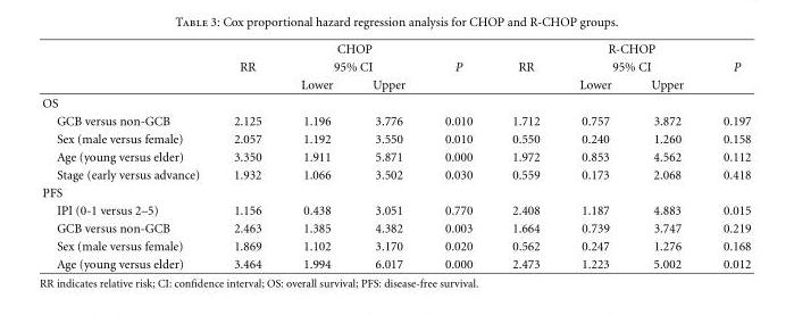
<table><thead><tr><td rowspan="3"></td><td colspan="4">CHOP</td><td colspan="4">R-CHOP</td></tr><tr><td rowspan="2">RR</td><td colspan="2">95% CI</td><td rowspan="2">P</td><td rowspan="2">RR</td><td colspan="2">95% CI</td><td rowspan="2">P</td></tr><tr><td>Lower</td><td>Upper</td><td>Lower</td><td>Upper</td></tr></thead><tbody><tr><td colspan="9">OS</td></tr><tr><td>GCB versus non-GCB</td><td>2.125</td><td>1.196</td><td>3.776</td><td>0.010</td><td>1.712</td><td>0.757</td><td>3.872</td><td>0.197</td></tr><tr><td>Sex (male versus female)</td><td>2.057</td><td>1.192</td><td>3.550</td><td>0.010</td><td>0.550</td><td>0.240</td><td>1.260</td><td>0.158</td></tr><tr><td>Age (young versus elder)</td><td>3.350</td><td>1.911</td><td>5.871</td><td>0.000</td><td>1.972</td><td>0.853</td><td>4.562</td><td>0.112</td></tr><tr><td>Stage (early versus advance)</td><td>1.932</td><td>1.066</td><td>3.502</td><td>0.030</td><td>0.559</td><td>0.173</td><td>2.068</td><td>0.418</td></tr><tr><td colspan="9">PFS</td></tr><tr><td>IPI (0-1 versus 2–5)</td><td>1.156</td><td>0.438</td><td>3.051</td><td>0.770</td><td>2.408</td><td>1.187</td><td>4.883</td><td>0.015</td></tr><tr><td>GCB versus non-GCB</td><td>2.463</td><td>1.385</td><td>4.382</td><td>0.003</td><td>1.664</td><td>0.739</td><td>3.747</td><td>0.219</td></tr><tr><td>Sex (male versus female)</td><td>1.869</td><td>1.102</td><td>3.170</td><td>0.020</td><td>0.562</td><td>0.247</td><td>1.276</td><td>0.168</td></tr><tr><td>Age (young versus elder)</td><td>3.464</td><td>1.994</td><td>6.017</td><td>0.000</td><td>2.473</td><td>1.223</td><td>5.002</td><td>0.012</td></tr></tbody></table>